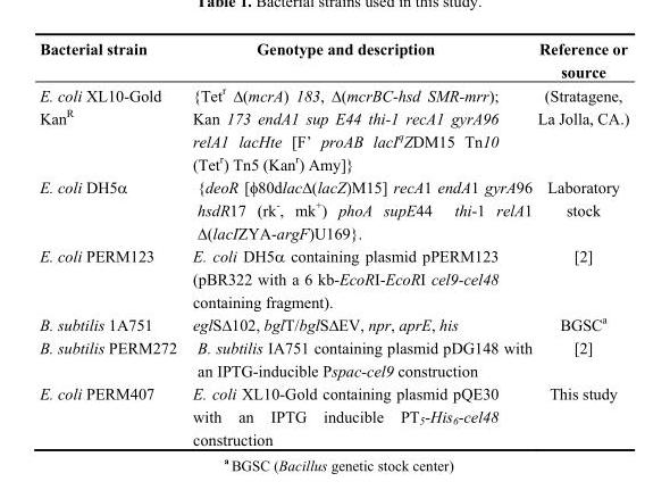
<table><thead><tr><td>Bacterial strain</td><td>Genotype and description</td><td>Reference or source</td></tr></thead><tbody><tr><td>E. coli XL10-Gold Kan<sup>R</sup></td><td>{Tet<sup>r</sup> Δ(mcrA) 183, Δ(mcrBC-hsd SMR-mrr); Kan 173 endA1 sup E44 thi-1 recA1 gyrA96 relA1 lacHte [F’ proAB lacI<sup>q</sup>ZDM15 Tn10 (Tet<sup>r</sup>) Tn5 (Kan<sup>r</sup>) Amy]}</td><td>(Stratagene, La Jolla, CA.)</td></tr><tr><td>E. coli DH5α</td><td>{deoR [φ80dlacΔ(lacZ)M15] recA1 endA1 gyrA96 hsdR17 (rk<sup>-</sup>, mk<sup>+</sup>) phoA supE44 thi-1 relA1 Δ(lacIZYA-argF)U169}.</td><td>Laboratory stock</td></tr><tr><td>E. coli PERM123</td><td>E. coli DH5α containing plasmid pPERM123 (pBR322 with a 6 kb-EcoRI-EcoRI cel9-cel48 containing fragment).</td><td>[2]</td></tr><tr><td>B. subtilis 1A751</td><td>eglSΔ102, bglT/bglSΔEV, npr, aprE, his</td><td>BGSC<sup>a</sup></td></tr><tr><td>B. subtilis PERM272</td><td>B. subtilis IA751 containing plasmid pDG148 with an IPTG-inducible Pspac-cel9 construction</td><td>[2]</td></tr><tr><td>E. coli PERM407</td><td>E. coli XL10-Gold containing plasmid pQE30 with an IPTG inducible PT<sub>5</sub>-His<sub>6</sub>-cel48 construction</td><td>This study</td></tr></tbody></table>